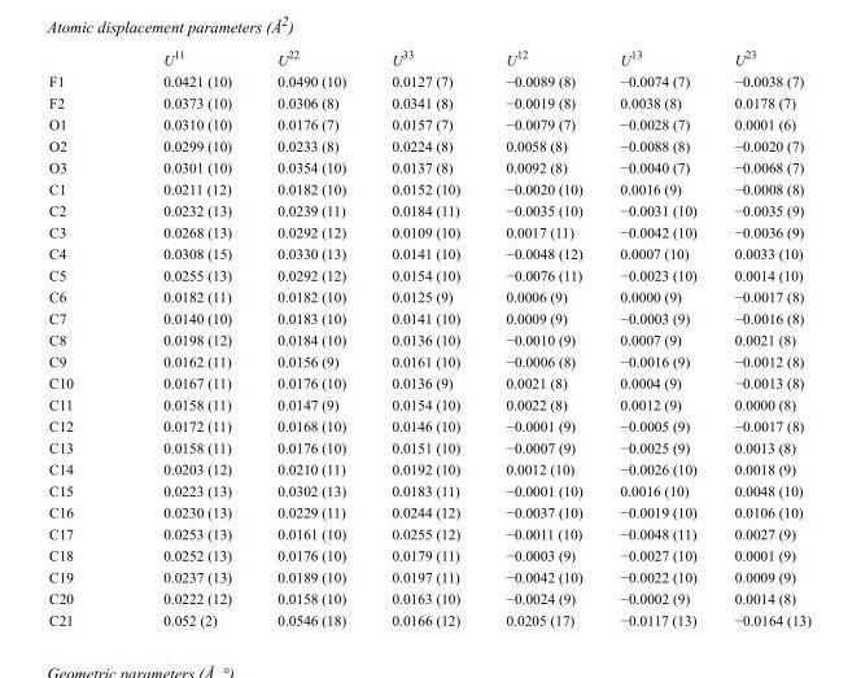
<table><thead><tr><td></td><td>U<sup>11</sup></td><td>U<sup>22</sup></td><td>U<sup>33</sup></td><td>U<sup>12</sup></td><td>U<sup>13</sup></td><td>U<sup>23</sup></td></tr></thead><tbody><tr><td>F1</td><td>0.0421 (10)</td><td>0.0490 (10)</td><td>0.0127 (7)</td><td>−0.0089 (8)</td><td>−0.0074 (7)</td><td>−0.0038 (7)</td></tr><tr><td>F2</td><td>0.0373 (10)</td><td>0.0306 (8)</td><td>0.0341 (8)</td><td>−0.0019 (8)</td><td>0.0038 (8)</td><td>0.0178 (7)</td></tr><tr><td>O1</td><td>0.0310 (10)</td><td>0.0176 (7)</td><td>0.0157 (7)</td><td>−0.0079 (7)</td><td>−0.0028 (7)</td><td>0.0001 (6)</td></tr><tr><td>O2</td><td>0.0299 (10)</td><td>0.0233 (8)</td><td>0.0224 (8)</td><td>0.0058 (8)</td><td>−0.0088 (8)</td><td>−0.0020 (7)</td></tr><tr><td>O3</td><td>0.0301 (10)</td><td>0.0354 (10)</td><td>0.0137 (8)</td><td>0.0092 (8)</td><td>−0.0040 (7)</td><td>−0.0068 (7)</td></tr><tr><td>C1</td><td>0.0211 (12)</td><td>0.0182 (10)</td><td>0.0152 (10)</td><td>−0.0020 (10)</td><td>0.0016 (9)</td><td>−0.0008 (8)</td></tr><tr><td>C2</td><td>0.0232 (13)</td><td>0.0239 (11)</td><td>0.0184 (11)</td><td>−0.0035 (10)</td><td>−0.0031 (10)</td><td>−0.0035 (9)</td></tr><tr><td>C3</td><td>0.0268 (13)</td><td>0.0292 (12)</td><td>0.0109 (10)</td><td>0.0017 (11)</td><td>−0.0042 (10)</td><td>−0.0036 (9)</td></tr><tr><td>C4</td><td>0.0308 (15)</td><td>0.0330 (13)</td><td>0.0141 (10)</td><td>−0.0048 (12)</td><td>0.0007 (10)</td><td>0.0033 (10)</td></tr><tr><td>C5</td><td>0.0255 (13)</td><td>0.0292 (12)</td><td>0.0154 (10)</td><td>−0.0076 (11)</td><td>−0.0023 (10)</td><td>0.0014 (10)</td></tr><tr><td>C6</td><td>0.0182 (11)</td><td>0.0182 (10)</td><td>0.0125 (9)</td><td>0.0006 (9)</td><td>0.0000 (9)</td><td>−0.0017 (8)</td></tr><tr><td>C7</td><td>0.0140 (10)</td><td>0.0183 (10)</td><td>0.0141 (10)</td><td>0.0009 (9)</td><td>−0.0003 (9)</td><td>−0.0016 (8)</td></tr><tr><td>C8</td><td>0.0198 (12)</td><td>0.0184 (10)</td><td>0.0136 (10)</td><td>−0.0010 (9)</td><td>0.0007 (9)</td><td>0.0021 (8)</td></tr><tr><td>C9</td><td>0.0162 (11)</td><td>0.0156 (9)</td><td>0.0161 (10)</td><td>−0.0006 (8)</td><td>−0.0016 (9)</td><td>−0.0012 (8)</td></tr><tr><td>C10</td><td>0.0167 (11)</td><td>0.0176 (10)</td><td>0.0136 (9)</td><td>0.0021 (8)</td><td>0.0004 (9)</td><td>−0.0013 (8)</td></tr><tr><td>C11</td><td>0.0158 (11)</td><td>0.0147 (9)</td><td>0.0154 (10)</td><td>0.0022 (8)</td><td>0.0012 (9)</td><td>0.0000 (8)</td></tr><tr><td>C12</td><td>0.0172 (11)</td><td>0.0168 (10)</td><td>0.0146 (10)</td><td>−0.0001 (9)</td><td>−0.0005 (9)</td><td>−0.0017 (8)</td></tr><tr><td>C13</td><td>0.0158 (11)</td><td>0.0176 (10)</td><td>0.0151 (10)</td><td>−0.0007 (9)</td><td>−0.0025 (9)</td><td>0.0013 (8)</td></tr><tr><td>C14</td><td>0.0203 (12)</td><td>0.0210 (11)</td><td>0.0192 (10)</td><td>0.0012 (10)</td><td>−0.0026 (10)</td><td>0.0018 (9)</td></tr><tr><td>C15</td><td>0.0223 (13)</td><td>0.0302 (13)</td><td>0.0183 (11)</td><td>−0.0001 (10)</td><td>0.0016 (10)</td><td>0.0048 (10)</td></tr><tr><td>C16</td><td>0.0230 (13)</td><td>0.0229 (11)</td><td>0.0244 (12)</td><td>−0.0037 (10)</td><td>−0.0019 (10)</td><td>0.0106 (10)</td></tr><tr><td>C17</td><td>0.0253 (13)</td><td>0.0161 (10)</td><td>0.0255 (12)</td><td>−0.0011 (10)</td><td>−0.0048 (11)</td><td>0.0027 (9)</td></tr><tr><td>C18</td><td>0.0252 (13)</td><td>0.0176 (10)</td><td>0.0179 (11)</td><td>−0.0003 (9)</td><td>−0.0027 (10)</td><td>0.0001 (9)</td></tr><tr><td>C19</td><td>0.0237 (13)</td><td>0.0189 (10)</td><td>0.0197 (11)</td><td>−0.0042 (10)</td><td>−0.0022 (10)</td><td>0.0009 (9)</td></tr><tr><td>C20</td><td>0.0222 (12)</td><td>0.0158 (10)</td><td>0.0163 (10)</td><td>−0.0024 (9)</td><td>−0.0002 (9)</td><td>0.0014 (8)</td></tr><tr><td>C21</td><td>0.052 (2)</td><td>0.0546 (18)</td><td>0.0166 (12)</td><td>0.0205 (17)</td><td>−0.0117 (13)</td><td>−0.0164 (13)</td></tr></tbody></table>